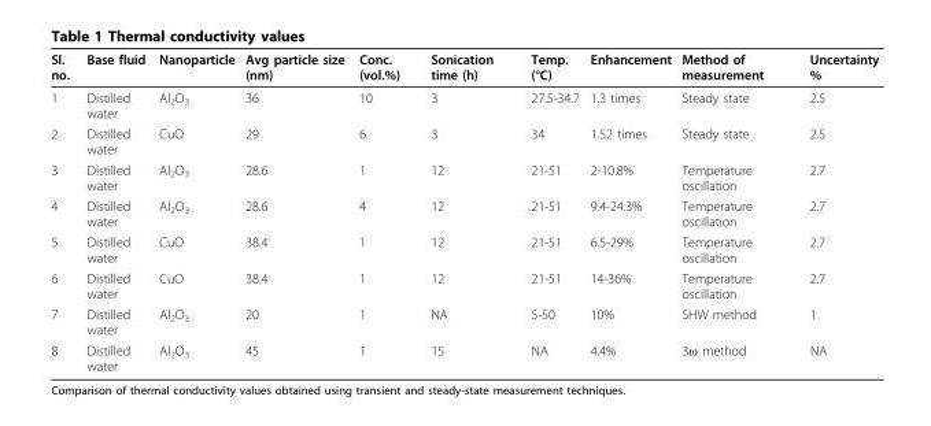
<table><thead><tr><td>Sl. no.</td><td>Base fluid</td><td>Nanoparticle</td><td>Avg particle size (nm)</td><td>Conc. (vol.%)</td><td>Sonication time (h)</td><td>Temp. (°C)</td><td>Enhancement</td><td>Method of measurement</td><td>Uncertainty %</td></tr></thead><tbody><tr><td>1</td><td>Distilled water</td><td>Al<sub>2</sub>O<sub>3</sub></td><td>36</td><td>10</td><td>3</td><td>27.5-34.7</td><td>1.3 times</td><td>Steady state</td><td>2.5</td></tr><tr><td>2</td><td>Distilled water</td><td>CuO</td><td>29</td><td>6</td><td>3</td><td>34</td><td>1.52 times</td><td>Steady state</td><td>2.5</td></tr><tr><td>3</td><td>Distilled water</td><td>Al<sub>2</sub>O<sub>3</sub></td><td>28.6</td><td>1</td><td>12</td><td>21-51</td><td>2-10.8%</td><td>Temperature oscillation</td><td>2.7</td></tr><tr><td>4</td><td>Distilled water</td><td>Al<sub>2</sub>O<sub>3</sub></td><td>28.6</td><td>4</td><td>12</td><td>21-51</td><td>9.4-24.3%</td><td>Temperature oscillation</td><td>2.7</td></tr><tr><td>5</td><td>Distilled water</td><td>CuO</td><td>38.4</td><td>1</td><td>12</td><td>21-51</td><td>6.5-29%</td><td>Temperature oscillation</td><td>2.7</td></tr><tr><td>6</td><td>Distilled water</td><td>CuO</td><td>38.4</td><td>1</td><td>12</td><td>21-51</td><td>14-36%</td><td>Temperature oscillation</td><td>2.7</td></tr><tr><td>7</td><td>Distilled water</td><td>Al<sub>2</sub>O<sub>3</sub></td><td>20</td><td>1</td><td>NA</td><td>5-50</td><td>10%</td><td>SHW method</td><td>1</td></tr><tr><td>8</td><td>Distilled water</td><td>Al<sub>2</sub>O<sub>3</sub></td><td>45</td><td>1</td><td>15</td><td>NA</td><td>4.4%</td><td>3ω method</td><td>NA</td></tr></tbody></table>